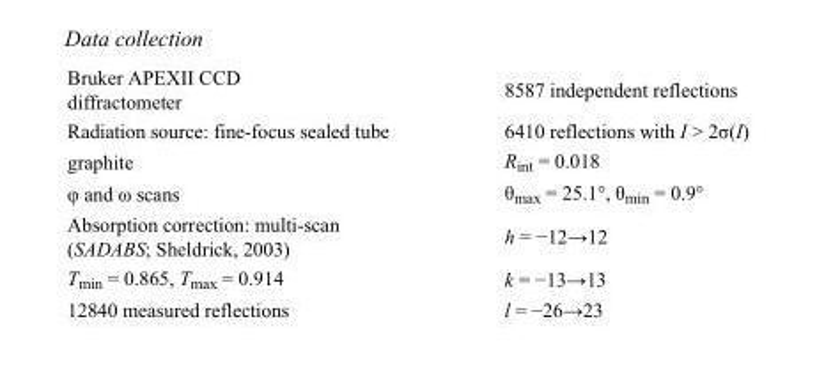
<table><tbody><tr><td>Bruker APEXII CCD diffractometer</td><td>8587 independent reflections</td></tr><tr><td>Radiation source: fine-focus sealed tube</td><td>6410 reflections with I &gt; 2σ(I)</td></tr><tr><td>graphite</td><td>R<sub>int</sub> = 0.018</td></tr><tr><td>φ and ω scans</td><td>θ<sub>max</sub> = 25.1°, θ<sub>min</sub> = 0.9°</td></tr><tr><td>Absorption correction: multi-scan (SADABS; Sheldrick, 2003)</td><td>h = −12→12</td></tr><tr><td>T<sub>min</sub> = 0.865, T<sub>max</sub> = 0.914</td><td>k = −13→13</td></tr><tr><td>12840 measured reflections</td><td>l = −26→23</td></tr></tbody></table>